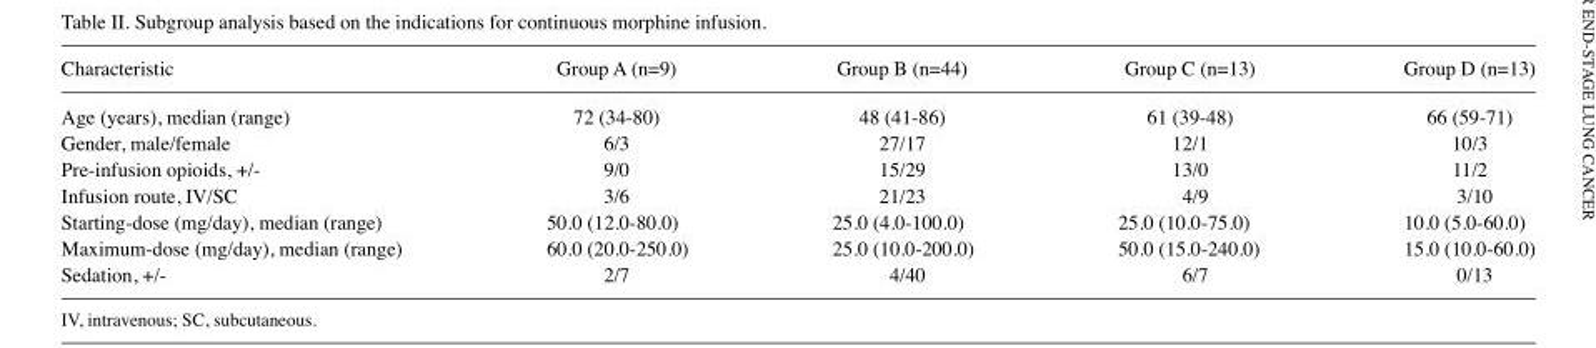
<table><thead><tr><td>Characteristic</td><td>Group A (n=9)</td><td>Group B (n=44)</td><td>Group C (n=13)</td><td>Group D (n=13)</td></tr></thead><tbody><tr><td>Age (years), median (range)</td><td>72 (34-80)</td><td>48 (41-86)</td><td>61 (39-48)</td><td>66 (59-71)</td></tr><tr><td>Gender, male/female</td><td>6/3</td><td>27/17</td><td>12/1</td><td>10/3</td></tr><tr><td>Pre-infusion opioids, +/-</td><td>9/0</td><td>15/29</td><td>13/0</td><td>11/2</td></tr><tr><td>Infusion route, IV/SC</td><td>3/6</td><td>21/23</td><td>4/9</td><td>3/10</td></tr><tr><td>Starting-dose (mg/day), median (range)</td><td>50.0 (12.0-80.0)</td><td>25.0 (4.0-100.0)</td><td>25.0 (10.0-75.0)</td><td>10.0 (5.0-60.0)</td></tr><tr><td>Maximum-dose (mg/day), median (range)</td><td>60.0 (20.0-250.0)</td><td>25.0 (10.0-200.0)</td><td>50.0 (15.0-240.0)</td><td>15.0 (10.0-60.0)</td></tr><tr><td>Sedation, +/-</td><td>2/7</td><td>4/40</td><td>6/7</td><td>0/13</td></tr></tbody></table>